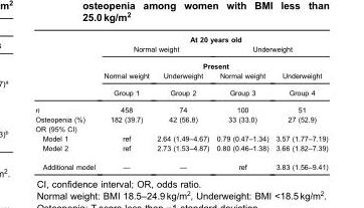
<table><thead><tr><td rowspan="5"></td><td colspan="4">At 20 years old</td></tr><tr><td colspan="2">Normal weight</td><td colspan="2">Underweight</td></tr><tr><td colspan="4">Present</td></tr><tr><td rowspan="2">Normal weight Group 1</td><td rowspan="2">Underweight Group 2</td><td rowspan="2">Normal weight Group 3</td><td rowspan="2">Underweight Group 4</td></tr><tr></tr></thead><tbody><tr><td>n</td><td>458</td><td>74</td><td>100</td><td>51</td></tr><tr><td>Osteopenia (%)</td><td>182 (39.7)</td><td>42 (56.8)</td><td>33 (33.0)</td><td>27 (52.9)</td></tr><tr><td colspan="5">OR (95% CI)</td></tr><tr><td>Model 1</td><td>ref</td><td>2.64 (1.49–4.67)</td><td>0.79 (0.47–1.34)</td><td>3.57 (1.77–7.19)</td></tr><tr><td>Model 2</td><td>ref</td><td>2.73 (1.53–4.87)</td><td>0.80 (0.46–1.38)</td><td>3.66 (1.82–7.39)</td></tr><tr><td>Additional model</td><td>—</td><td>—</td><td>ref</td><td>3.83 (1.56–9.41)</td></tr></tbody></table>